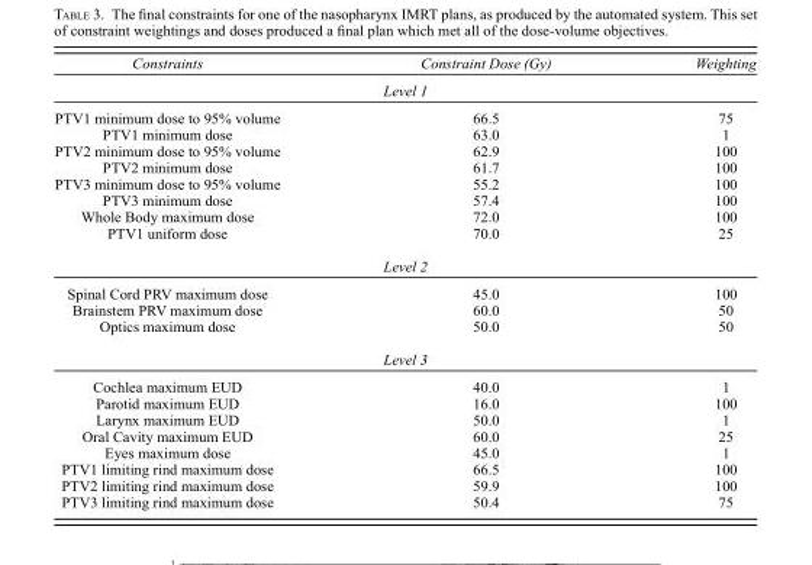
<table><thead><tr><td>Constraints</td><td>Constraint Dose (Gy)</td><td>Weighting</td></tr></thead><tbody><tr><td colspan="3">Level 1</td></tr><tr><td>PTV1 minimum dose to 95% volume</td><td>66.5</td><td>75</td></tr><tr><td>PTV1 minimum dose</td><td>63.0</td><td>1</td></tr><tr><td>PTV2 minimum dose to 95% volume</td><td>62.9</td><td>100</td></tr><tr><td>PTV2 minimum dose</td><td>61.7</td><td>100</td></tr><tr><td>PTV3 minimum dose to 95% volume</td><td>55.2</td><td>100</td></tr><tr><td>PTV3 minimum dose</td><td>57.4</td><td>100</td></tr><tr><td>Whole Body maximum dose</td><td>72.0</td><td>100</td></tr><tr><td>PTV1 uniform dose</td><td>70.0</td><td>25</td></tr><tr><td colspan="3">Level 2</td></tr><tr><td>Spinal Cord PRV maximum dose</td><td>45.0</td><td>100</td></tr><tr><td>Brainstem PRV maximum dose</td><td>60.0</td><td>50</td></tr><tr><td>Optics maximum dose</td><td>50.0</td><td>50</td></tr><tr><td colspan="3">Level 3</td></tr><tr><td>Cochlea maximum EUD</td><td>40.0</td><td>1</td></tr><tr><td>Parotid maximum EUD</td><td>16.0</td><td>100</td></tr><tr><td>Larynx maximum EUD</td><td>50.0</td><td>1</td></tr><tr><td>Oral Cavity maximum EUD</td><td>60.0</td><td>25</td></tr><tr><td>Eyes maximum dose</td><td>45.0</td><td>1</td></tr><tr><td>PTV1 limiting rind maximum dose</td><td>66.5</td><td>100</td></tr><tr><td>PTV2 limiting rind maximum dose</td><td>59.9</td><td>100</td></tr><tr><td>PTV3 limiting rind maximum dose</td><td>50.4</td><td>75</td></tr></tbody></table>